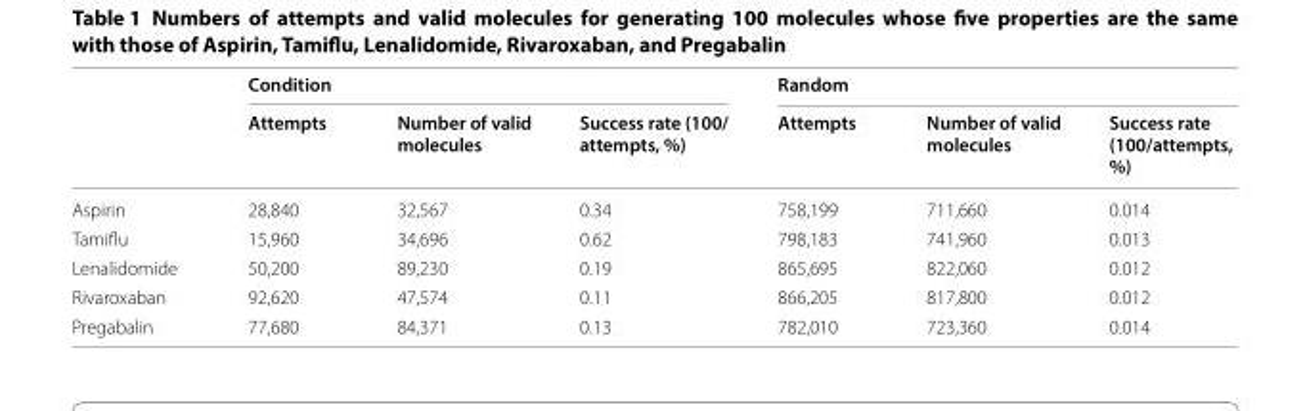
<table><thead><tr><td rowspan="2"></td><td colspan="3">Condition</td><td colspan="3">Random</td></tr><tr><td>Attempts</td><td>Number of valid molecules</td><td>Success rate (100/ attempts, %)</td><td>Attempts</td><td>Number of valid molecules</td><td>Success rate (100/attempts, %)</td></tr></thead><tbody><tr><td>Aspirin</td><td>28,840</td><td>32,567</td><td>0.34</td><td>758,199</td><td>711,660</td><td>0.014</td></tr><tr><td>Tamiflu</td><td>15,960</td><td>34,696</td><td>0.62</td><td>798,183</td><td>741,960</td><td>0.013</td></tr><tr><td>Lenalidomide</td><td>50,200</td><td>89,230</td><td>0.19</td><td>865,695</td><td>822,060</td><td>0.012</td></tr><tr><td>Rivaroxaban</td><td>92,620</td><td>47,574</td><td>0.11</td><td>866,205</td><td>817,800</td><td>0.012</td></tr><tr><td>Pregabalin</td><td>77,680</td><td>84,371</td><td>0.13</td><td>782,010</td><td>723,360</td><td>0.014</td></tr></tbody></table>